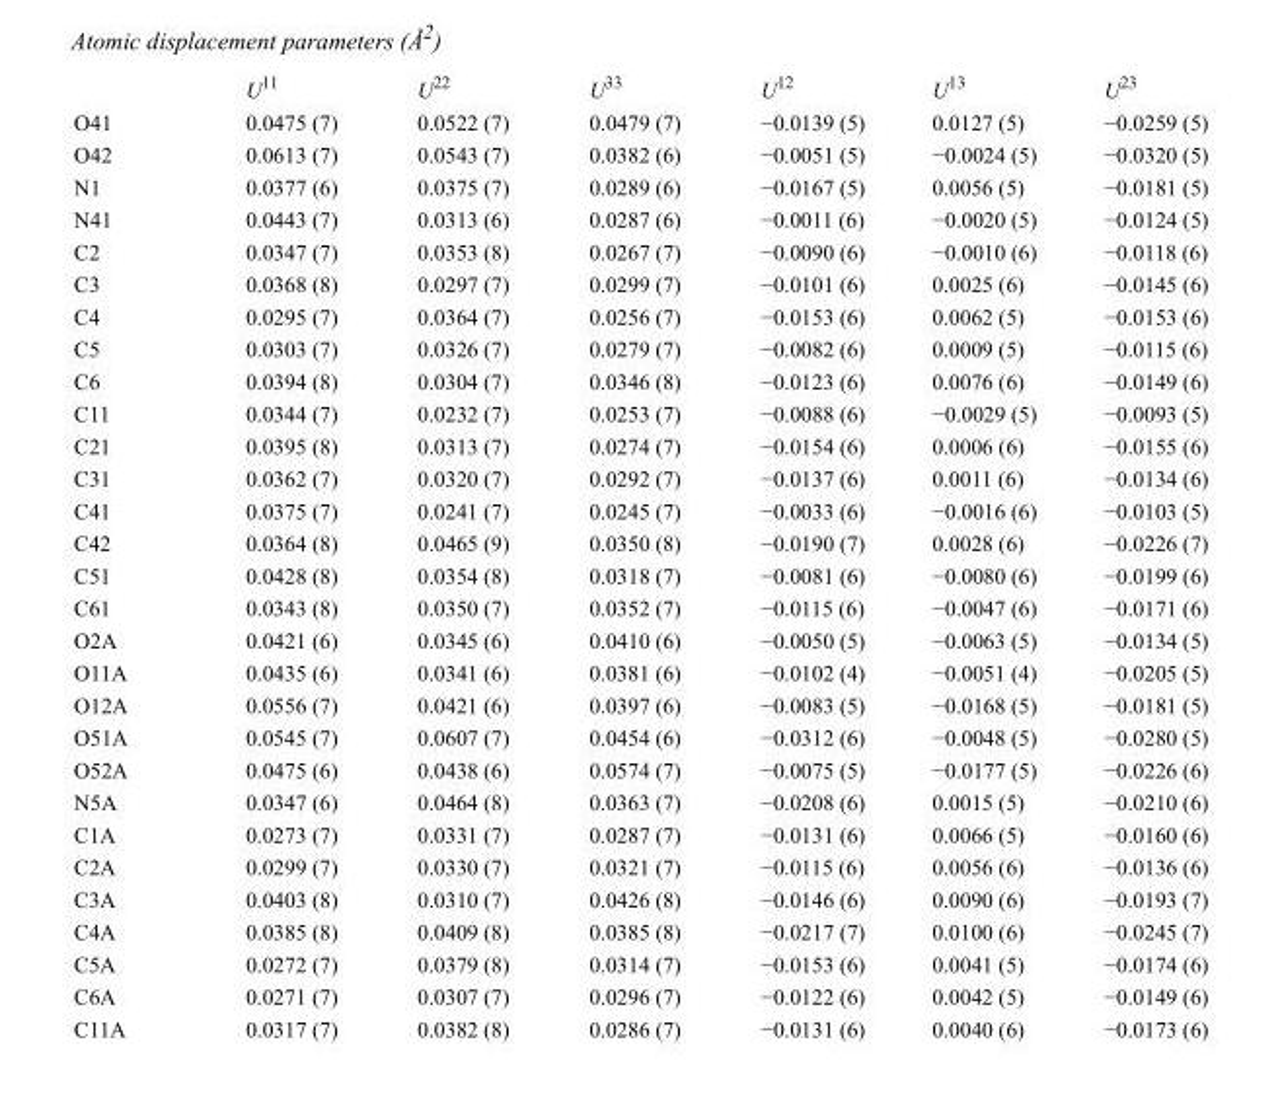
<table><thead><tr><td></td><td>U<sup>11</sup></td><td>U<sup>22</sup></td><td>U<sup>33</sup></td><td>U<sup>12</sup></td><td>U<sup>13</sup></td><td>U<sup>23</sup></td></tr></thead><tbody><tr><td>O41</td><td>0.0475 (7)</td><td>0.0522 (7)</td><td>0.0479 (7)</td><td>−0.0139 (5)</td><td>0.0127 (5)</td><td>−0.0259 (5)</td></tr><tr><td>O42</td><td>0.0613 (7)</td><td>0.0543 (7)</td><td>0.0382 (6)</td><td>−0.0051 (5)</td><td>−0.0024 (5)</td><td>−0.0320 (5)</td></tr><tr><td>N1</td><td>0.0377 (6)</td><td>0.0375 (7)</td><td>0.0289 (6)</td><td>−0.0167 (5)</td><td>0.0056 (5)</td><td>−0.0181 (5)</td></tr><tr><td>N41</td><td>0.0443 (7)</td><td>0.0313 (6)</td><td>0.0287 (6)</td><td>−0.0011 (6)</td><td>−0.0020 (5)</td><td>−0.0124 (5)</td></tr><tr><td>C2</td><td>0.0347 (7)</td><td>0.0353 (8)</td><td>0.0267 (7)</td><td>−0.0090 (6)</td><td>−0.0010 (6)</td><td>−0.0118 (6)</td></tr><tr><td>C3</td><td>0.0368 (8)</td><td>0.0297 (7)</td><td>0.0299 (7)</td><td>−0.0101 (6)</td><td>0.0025 (6)</td><td>−0.0145 (6)</td></tr><tr><td>C4</td><td>0.0295 (7)</td><td>0.0364 (7)</td><td>0.0256 (7)</td><td>−0.0153 (6)</td><td>0.0062 (5)</td><td>−0.0153 (6)</td></tr><tr><td>C5</td><td>0.0303 (7)</td><td>0.0326 (7)</td><td>0.0279 (7)</td><td>−0.0082 (6)</td><td>0.0009 (5)</td><td>−0.0115 (6)</td></tr><tr><td>C6</td><td>0.0394 (8)</td><td>0.0304 (7)</td><td>0.0346 (8)</td><td>−0.0123 (6)</td><td>0.0076 (6)</td><td>−0.0149 (6)</td></tr><tr><td>C11</td><td>0.0344 (7)</td><td>0.0232 (7)</td><td>0.0253 (7)</td><td>−0.0088 (6)</td><td>−0.0029 (5)</td><td>−0.0093 (5)</td></tr><tr><td>C21</td><td>0.0395 (8)</td><td>0.0313 (7)</td><td>0.0274 (7)</td><td>−0.0154 (6)</td><td>0.0006 (6)</td><td>−0.0155 (6)</td></tr><tr><td>C31</td><td>0.0362 (7)</td><td>0.0320 (7)</td><td>0.0292 (7)</td><td>−0.0137 (6)</td><td>0.0011 (6)</td><td>−0.0134 (6)</td></tr><tr><td>C41</td><td>0.0375 (7)</td><td>0.0241 (7)</td><td>0.0245 (7)</td><td>−0.0033 (6)</td><td>−0.0016 (6)</td><td>−0.0103 (5)</td></tr><tr><td>C42</td><td>0.0364 (8)</td><td>0.0465 (9)</td><td>0.0350 (8)</td><td>−0.0190 (7)</td><td>0.0028 (6)</td><td>−0.0226 (7)</td></tr><tr><td>C51</td><td>0.0428 (8)</td><td>0.0354 (8)</td><td>0.0318 (7)</td><td>−0.0081 (6)</td><td>−0.0080 (6)</td><td>−0.0199 (6)</td></tr><tr><td>C61</td><td>0.0343 (8)</td><td>0.0350 (7)</td><td>0.0352 (7)</td><td>−0.0115 (6)</td><td>−0.0047 (6)</td><td>−0.0171 (6)</td></tr><tr><td>O2A</td><td>0.0421 (6)</td><td>0.0345 (6)</td><td>0.0410 (6)</td><td>−0.0050 (5)</td><td>−0.0063 (5)</td><td>−0.0134 (5)</td></tr><tr><td>O11A</td><td>0.0435 (6)</td><td>0.0341 (6)</td><td>0.0381 (6)</td><td>−0.0102 (4)</td><td>−0.0051 (4)</td><td>−0.0205 (5)</td></tr><tr><td>O12A</td><td>0.0556 (7)</td><td>0.0421 (6)</td><td>0.0397 (6)</td><td>−0.0083 (5)</td><td>−0.0168 (5)</td><td>−0.0181 (5)</td></tr><tr><td>O51A</td><td>0.0545 (7)</td><td>0.0607 (7)</td><td>0.0454 (6)</td><td>−0.0312 (6)</td><td>−0.0048 (5)</td><td>−0.0280 (5)</td></tr><tr><td>O52A</td><td>0.0475 (6)</td><td>0.0438 (6)</td><td>0.0574 (7)</td><td>−0.0075 (5)</td><td>−0.0177 (5)</td><td>−0.0226 (6)</td></tr><tr><td>N5A</td><td>0.0347 (6)</td><td>0.0464 (8)</td><td>0.0363 (7)</td><td>−0.0208 (6)</td><td>0.0015 (5)</td><td>−0.0210 (6)</td></tr><tr><td>C1A</td><td>0.0273 (7)</td><td>0.0331 (7)</td><td>0.0287 (7)</td><td>−0.0131 (6)</td><td>0.0066 (5)</td><td>−0.0160 (6)</td></tr><tr><td>C2A</td><td>0.0299 (7)</td><td>0.0330 (7)</td><td>0.0321 (7)</td><td>−0.0115 (6)</td><td>0.0056 (6)</td><td>−0.0136 (6)</td></tr><tr><td>C3A</td><td>0.0403 (8)</td><td>0.0310 (7)</td><td>0.0426 (8)</td><td>−0.0146 (6)</td><td>0.0090 (6)</td><td>−0.0193 (7)</td></tr><tr><td>C4A</td><td>0.0385 (8)</td><td>0.0409 (8)</td><td>0.0385 (8)</td><td>−0.0217 (7)</td><td>0.0100 (6)</td><td>−0.0245 (7)</td></tr><tr><td>C5A</td><td>0.0272 (7)</td><td>0.0379 (8)</td><td>0.0314 (7)</td><td>−0.0153 (6)</td><td>0.0041 (5)</td><td>−0.0174 (6)</td></tr><tr><td>C6A</td><td>0.0271 (7)</td><td>0.0307 (7)</td><td>0.0296 (7)</td><td>−0.0122 (6)</td><td>0.0042 (5)</td><td>−0.0149 (6)</td></tr><tr><td>C11A</td><td>0.0317 (7)</td><td>0.0382 (8)</td><td>0.0286 (7)</td><td>−0.0131 (6)</td><td>0.0040 (6)</td><td>−0.0173 (6)</td></tr></tbody></table>